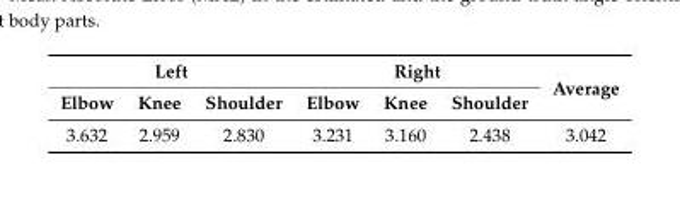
<table><thead><tr><td colspan="3">Left</td><td colspan="3">Right</td><td rowspan="2">Average</td></tr><tr><td>Elbow</td><td>Knee</td><td>Shoulder</td><td>Elbow</td><td>Knee</td><td>Shoulder</td></tr></thead><tbody><tr><td>3.632</td><td>2.959</td><td>2.830</td><td>3.231</td><td>3.160</td><td>2.438</td><td>3.042</td></tr></tbody></table>